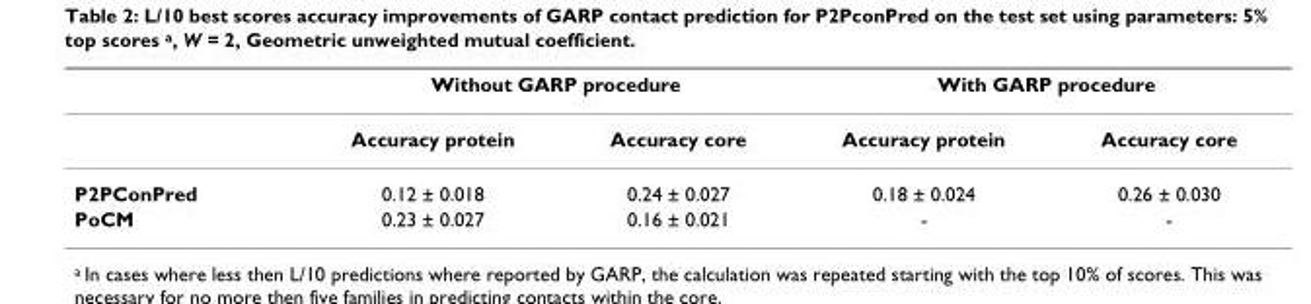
<table><thead><tr><td rowspan="2"></td><td colspan="2">Without GARP procedure</td><td colspan="2">With GARP procedure</td></tr><tr><td>Accuracy protein</td><td>Accuracy core</td><td>Accuracy protein</td><td>Accuracy core</td></tr></thead><tbody><tr><td>P2PConPred</td><td>0.12 ± 0.018</td><td>0.24 ± 0.027</td><td>0.18 ± 0.024</td><td>0.26 ± 0.030</td></tr><tr><td>PoCM</td><td>0.23 ± 0.027</td><td>0.16 ± 0.021</td><td>-</td><td>-</td></tr></tbody></table>